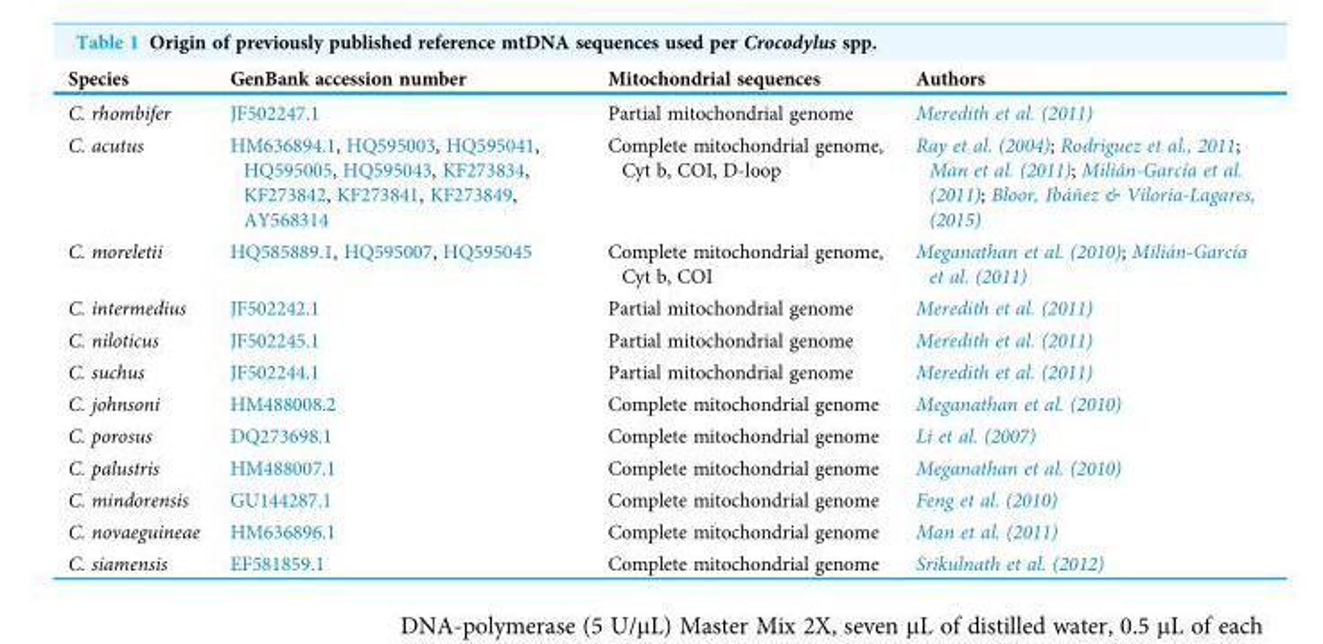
<table><thead><tr><td>Species</td><td>GenBank accession number</td><td>Mitochondrial sequences</td><td>Authors</td></tr></thead><tbody><tr><td>C. rhombifer</td><td>JF502247.1</td><td>Partial mitochondrial genome</td><td>Meredith et al. (2011)</td></tr><tr><td>C. acutus</td><td>HM636894.1, HQ595003, HQ595041, HQ595005, HQ595043, KF273834, KF273842, KF273841, KF273849, AY568314</td><td>Complete mitochondrial genome, Cyt b, COI, D-loop</td><td>Ray et al. (2004); Rodriguez et al., 2011; Man et al. (2011); Milián-García et al. (2011); Bloor, Ibáñez &amp; Viloria-Lagares, (2015)</td></tr><tr><td>C. moreletii</td><td>HQ585889.1, HQ595007, HQ595045</td><td>Complete mitochondrial genome, Cyt b, COI</td><td>Meganathan et al. (2010); Milián-García et al. (2011)</td></tr><tr><td>C. intermedius</td><td>JF502242.1</td><td>Partial mitochondrial genome</td><td>Meredith et al. (2011)</td></tr><tr><td>C. niloticus</td><td>JF502245.1</td><td>Partial mitochondrial genome</td><td>Meredith et al. (2011)</td></tr><tr><td>C. suchus</td><td>JF502244.1</td><td>Partial mitochondrial genome</td><td>Meredith et al. (2011)</td></tr><tr><td>C. johnsoni</td><td>HM488008.2</td><td>Complete mitochondrial genome</td><td>Meganathan et al. (2010)</td></tr><tr><td>C. porosus</td><td>DQ273698.1</td><td>Complete mitochondrial genome</td><td>Li et al. (2007)</td></tr><tr><td>C. palustris</td><td>HM488007.1</td><td>Complete mitochondrial genome</td><td>Meganathan et al. (2010)</td></tr><tr><td>C. mindorensis</td><td>GU144287.1</td><td>Complete mitochondrial genome</td><td>Feng et al. (2010)</td></tr><tr><td>C. novaeguineae</td><td>HM636896.1</td><td>Complete mitochondrial genome</td><td>Man et al. (2011)</td></tr><tr><td>C. siamensis</td><td>EF581859.1</td><td>Complete mitochondrial genome</td><td>Srikulnath et al. (2012)</td></tr></tbody></table>